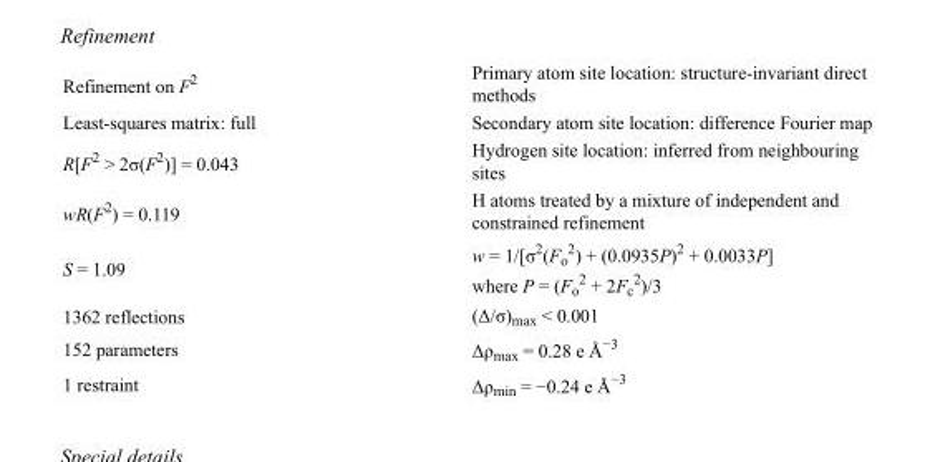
<table><tbody><tr><td>Refinement on F<sup>2</sup></td><td>Primary atom site location: structure-invariant direct methods</td></tr><tr><td>Least-squares matrix: full</td><td>Secondary atom site location: difference Fourier map</td></tr><tr><td>R[F<sup>2</sup> &gt; 2σ(F<sup>2</sup>)] = 0.043</td><td>Hydrogen site location: inferred from neighbouring sites</td></tr><tr><td>wR(F<sup>2</sup>) = 0.119</td><td>H atoms treated by a mixture of independent and constrained refinement</td></tr><tr><td>S = 1.09</td><td>w = 1/[σ<sup>2</sup>(F<sub>o</sub> <sup>2</sup>) + (0.0935P)<sup>2</sup> + 0.0033P] where P = (F<sub>o</sub> <sup>2</sup> + 2F<sub>c</sub> <sup>2</sup>)/3</td></tr><tr><td>1362 reflections</td><td>(Δ/σ)<sub>max</sub> &lt; 0.001</td></tr><tr><td>152 parameters</td><td>Δρ<sub>max</sub> = 0.28 e Å<sup>−3</sup></td></tr><tr><td>1 restraint</td><td>Δρ<sub>min</sub> = −0.24 e Å<sup>−3</sup></td></tr></tbody></table>